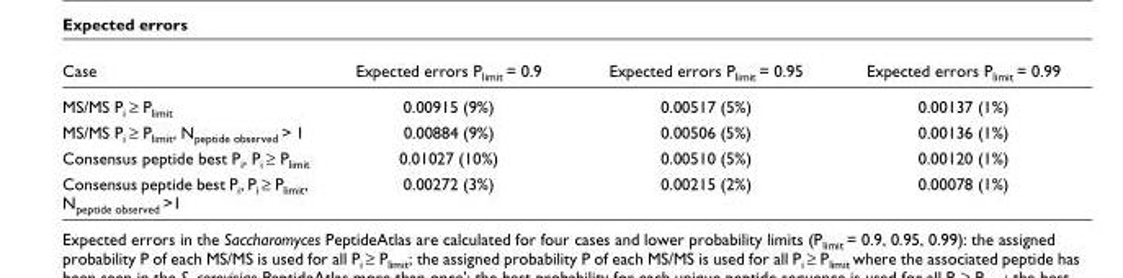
<table><thead><tr><td>Case</td><td>Expected errors Plimit = 0.9</td><td>Expected errors Plimit = 0.95</td><td>Expected errors Plimit = 0.99</td></tr></thead><tbody><tr><td>MS/MS Pi ≥ Plimit</td><td>0.00915 (9%)</td><td>0.00517 (5%)</td><td>0.00137 (1%)</td></tr><tr><td>MS/MS Pi ≥ Plimit, Npeptide observed &gt; 1</td><td>0.00884 (9%)</td><td>0.00506 (5%)</td><td>0.00136 (1%)</td></tr><tr><td>Consensus peptide best Pi, Pi ≥ Plimit</td><td>0.01027 (10%)</td><td>0.00510 (5%)</td><td>0.00120 (1%)</td></tr><tr><td>Consensus peptide best Pi, Pi ≥ Plimit, Npeptide observed &gt;1</td><td>0.00272 (3%)</td><td>0.00215 (2%)</td><td>0.00078 (1%)</td></tr></tbody></table>